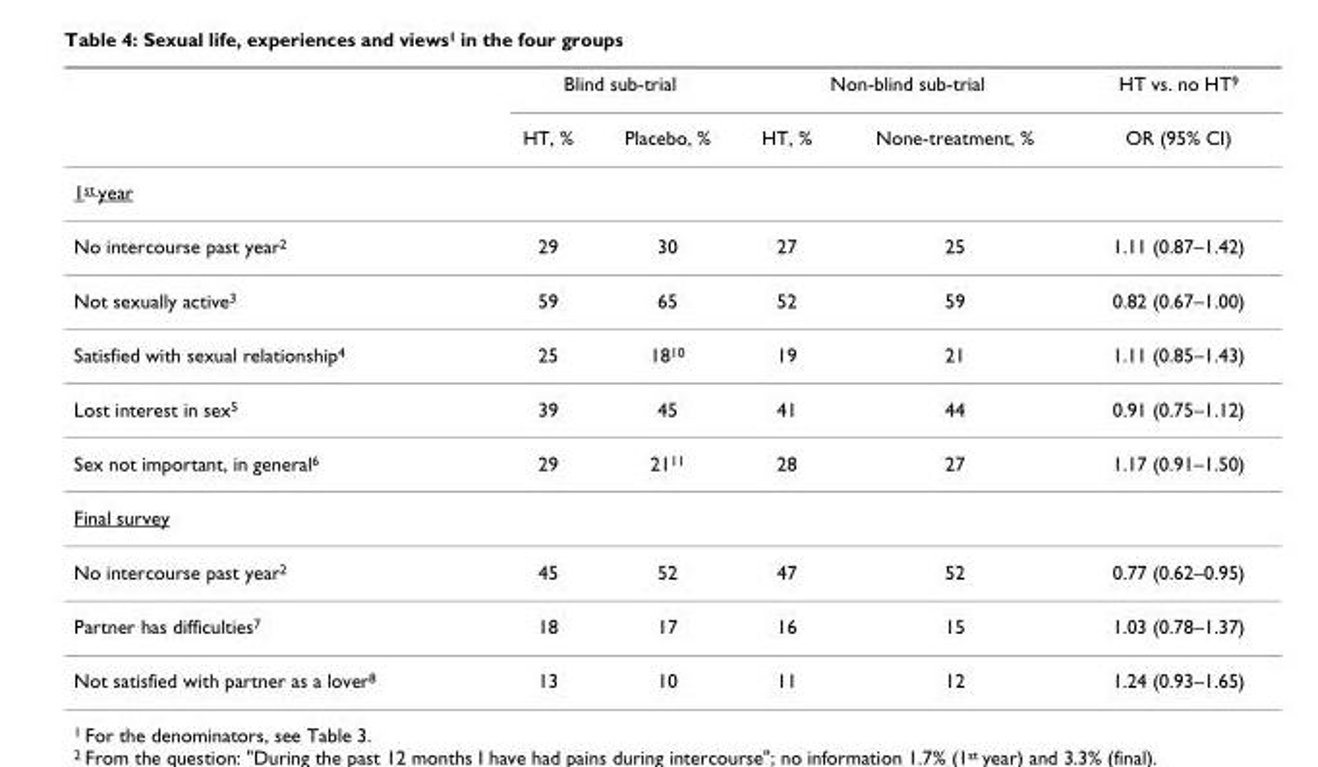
<table><thead><tr><td rowspan="2"></td><td colspan="2">Blind sub-trial</td><td colspan="2">Non-blind sub-trial</td><td rowspan="2">HT vs. no HT9 OR (95% CI)</td></tr><tr><td>HT, %</td><td>Placebo, %</td><td>HT, %</td><td>None-treatment, %</td></tr></thead><tbody><tr><td colspan="6">1st year</td></tr><tr><td>No intercourse past year2</td><td>29</td><td>30</td><td>27</td><td>25</td><td>1.11 (0.87–1.42)</td></tr><tr><td>Not sexually active3</td><td>59</td><td>65</td><td>52</td><td>59</td><td>0.82 (0.67–1.00)</td></tr><tr><td>Satisfied with sexual relationship4</td><td>25</td><td>1810</td><td>19</td><td>21</td><td>1.11 (0.85–1.43)</td></tr><tr><td>Lost interest in sex5</td><td>39</td><td>45</td><td>41</td><td>44</td><td>0.91 (0.75–1.12)</td></tr><tr><td>Sex not important, in general6</td><td>29</td><td>2111</td><td>28</td><td>27</td><td>1.17 (0.91–1.50)</td></tr><tr><td colspan="6">Final survey</td></tr><tr><td>No intercourse past year2</td><td>45</td><td>52</td><td>47</td><td>52</td><td>0.77 (0.62–0.95)</td></tr><tr><td>Partner has difficulties7</td><td>18</td><td>17</td><td>16</td><td>15</td><td>1.03 (0.78–1.37)</td></tr><tr><td>Not satisfied with partner as a lover8</td><td>13</td><td>10</td><td>11</td><td>12</td><td>1.24 (0.93–1.65)</td></tr></tbody></table>